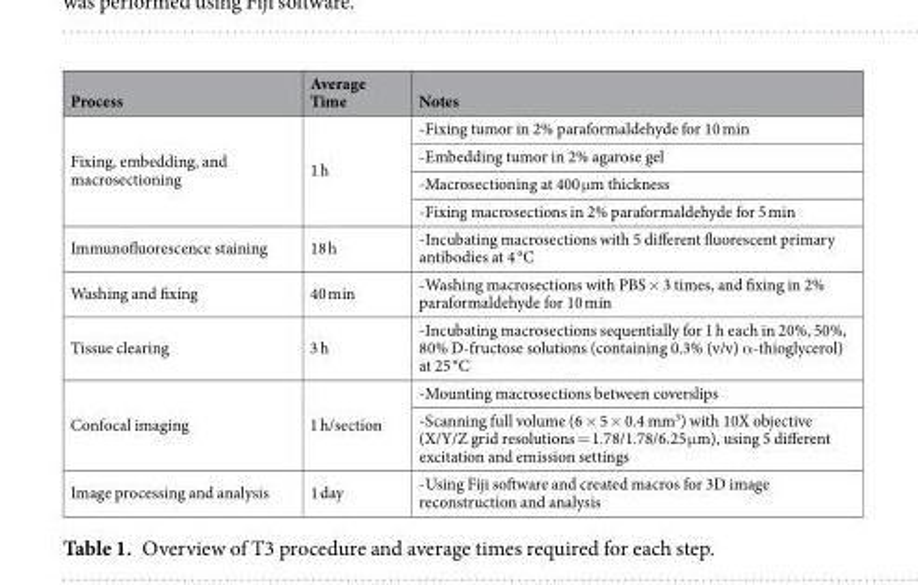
<table><thead><tr><td>Process</td><td>Average Time</td><td>Notes</td></tr></thead><tbody><tr><td rowspan="4">Fixing, embedding, and macrosectioning</td><td rowspan="4">1 h</td><td>-Fixing tumor in 2% paraformaldehyde for 10 min</td></tr><tr><td>-Embedding tumor in 2% agarose gel</td></tr><tr><td>-Macrosectioning at 400 μm thickness</td></tr><tr><td>-Fixing macrosections in 2% paraformaldehyde for 5 min</td></tr><tr><td>Immunofluorescence staining</td><td>18 h</td><td>-Incubating macrosections with 5 different fluorescent primary antibodies at 4 °C</td></tr><tr><td>Washing and fixing</td><td>40 min</td><td>-Washing macrosections with PBS × 3 times, and fixing in 2% paraformaldehyde for 10 min</td></tr><tr><td>Tissue clearing</td><td>3 h</td><td>-Incubating macrosections sequentially for 1 h each in 20%, 50%, 80% D-fructose solutions (containing 0.3% (v/v) α-thioglycerol) at 25 °C</td></tr><tr><td rowspan="2">Confocal imaging</td><td rowspan="2">1 h/section</td><td>-Mounting macrosections between coverslips</td></tr><tr><td>-Scanning full volume (6 × 5 × 0.4 mm<sup>3</sup>) with 10X objective (X/Y/Z grid resolutions = 1.78/1.78/6.25 μm), using 5 different excitation and emission settings</td></tr><tr><td>Image processing and analysis</td><td>1 day</td><td>-Using Fiji software and created macros for 3D image reconstruction and analysis</td></tr></tbody></table>